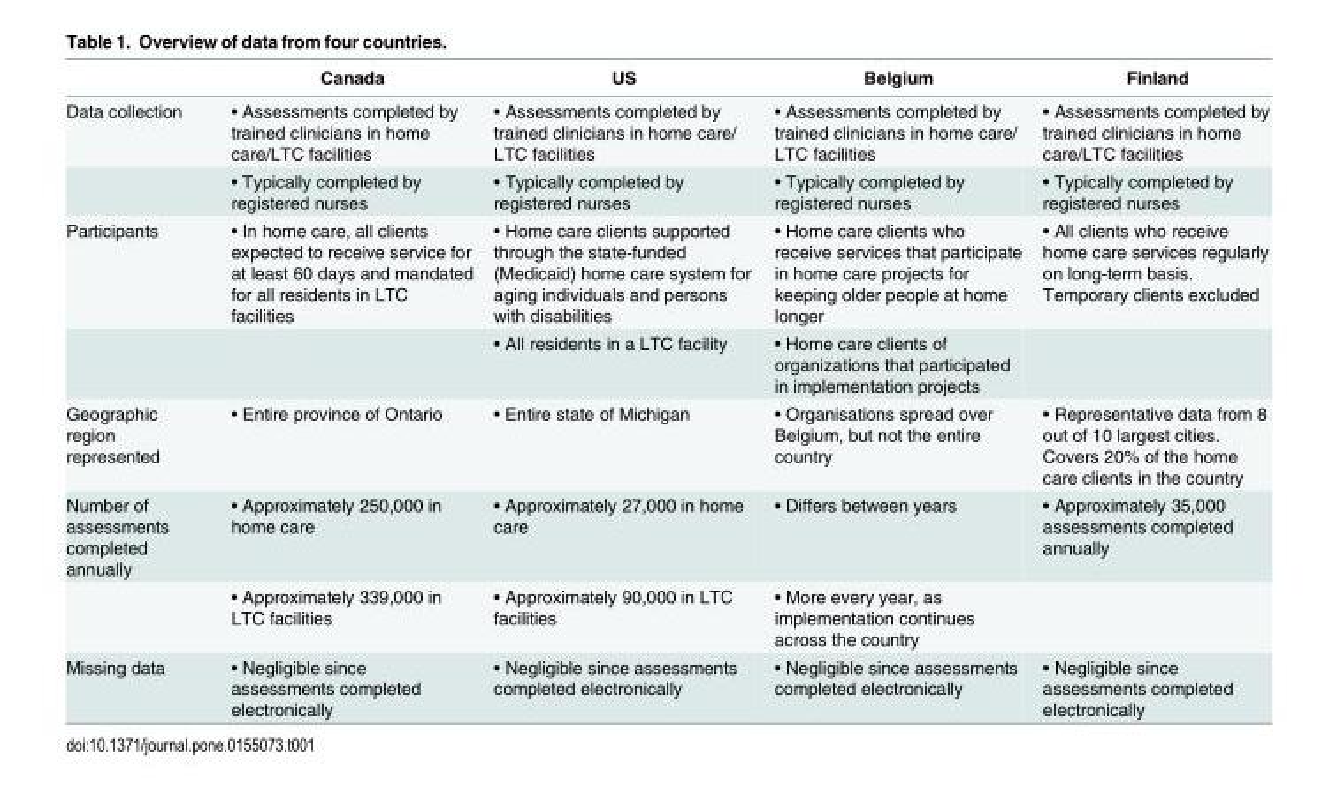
<table><thead><tr><td></td><td>Canada</td><td>US</td><td>Belgium</td><td>Finland</td></tr></thead><tbody><tr><td rowspan="2">Data collection</td><td>• Assessments completed by trained clinicians in home care/LTC facilities</td><td>• Assessments completed by trained clinicians in home care/ LTC facilities</td><td>• Assessments completed by trained clinicians in home care/ LTC facilities</td><td>• Assessments completed by trained clinicians in home care/LTC facilities</td></tr><tr><td>• Typically completed by registered nurses</td><td>• Typically completed by registered nurses</td><td>• Typically completed by registered nurses</td><td>• Typically completed by registered nurses</td></tr><tr><td rowspan="2">Participants</td><td>• In home care, all clients expected to receive service for at least 60 days and mandated for all residents in LTC facilities</td><td>• Home care clients supported through the state-funded (Medicaid) home care system for aging individuals and persons with disabilities</td><td>• Home care clients who receive services that participate in home care projects for keeping older people at home longer</td><td>• All clients who receive home care services regularly on long-term basis. Temporary clients excluded</td></tr><tr><td></td><td>• All residents in a LTC facility</td><td>• Home care clients of organizations that participated in implementation projects</td><td></td></tr><tr><td>Geographic region represented</td><td>• Entire province of Ontario</td><td>• Entire state of Michigan</td><td>• Organisations spread over Belgium, but not the entire country</td><td>• Representative data from 8 out of 10 largest cities. Covers 20% of the home care clients in the country</td></tr><tr><td rowspan="2">Number of assessments completed annually</td><td>• Approximately 250,000 in home care</td><td>• Approximately 27,000 in home care</td><td>• Differs between years</td><td>• Approximately 35,000 assessments completed annually</td></tr><tr><td>• Approximately 339,000 in LTC facilities</td><td>• Approximately 90,000 in LTC facilities</td><td>• More every year, as implementation continues across the country</td><td></td></tr><tr><td>Missing data</td><td>• Negligible since assessments completed electronically</td><td>• Negligible since assessments completed electronically</td><td>• Negligible since assessments completed electronically</td><td>• Negligible since assessments completed electronically</td></tr></tbody></table>